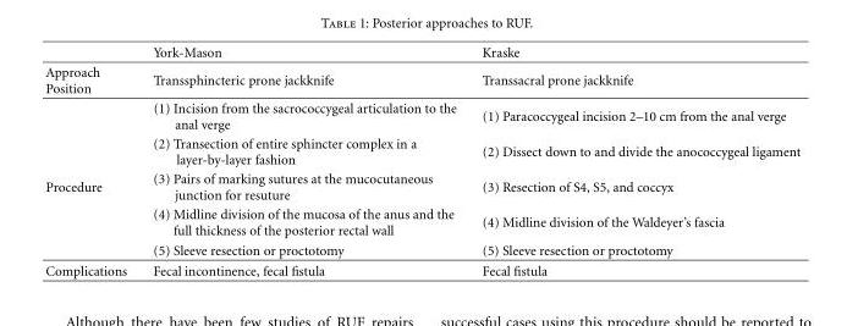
<table><thead><tr><td></td><td>York-Mason</td><td>Kraske</td></tr></thead><tbody><tr><td rowspan="3">Approach Position</td><td>Transsphincteric prone jackknife</td><td>Transsacral prone jackknife</td></tr><tr><td>(1) Incision from the sacrococcygeal articulation to the anal verge</td><td>(1) Paracoccygeal incision 2–10 cm from the anal verge</td></tr><tr><td>(2) Transection of entire sphincter complex in a layer-by-layer fashion</td><td>(2) Dissect down to and divide the anococcygeal ligament</td></tr><tr><td rowspan="3">Procedure</td><td>(3) Pairs of marking sutures at the mucocutaneous junction for resuture</td><td>(3) Resection of S4, S5, and coccyx</td></tr><tr><td>(4) Midline division of the mucosa of the anus and the full thickness of the posterior rectal wall</td><td>(4) Midline division of the Waldeyer’s fascia</td></tr><tr><td>(5) Sleeve resection or proctotomy</td><td>(5) Sleeve resection or proctotomy</td></tr><tr><td>Complications</td><td>Fecal incontinence, fecal fistula</td><td>Fecal fistula</td></tr></tbody></table>